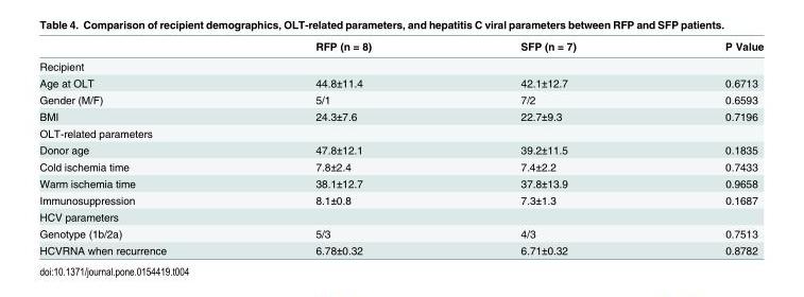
<table><thead><tr><td></td><td>RFP (n = 8)</td><td>SFP (n = 7)</td><td>P Value</td></tr></thead><tbody><tr><td colspan="4">Recipient</td></tr><tr><td>Age at OLT</td><td>44.8±11.4</td><td>42.1±12.7</td><td>0.6713</td></tr><tr><td>Gender (M/F)</td><td>5/1</td><td>7/2</td><td>0.6593</td></tr><tr><td>BMI</td><td>24.3±7.6</td><td>22.7±9.3</td><td>0.7196</td></tr><tr><td colspan="4">OLT-related parameters</td></tr><tr><td>Donor age</td><td>47.8±12.1</td><td>39.2±11.5</td><td>0.1835</td></tr><tr><td>Cold ischemia time</td><td>7.8±2.4</td><td>7.4±2.2</td><td>0.7433</td></tr><tr><td>Warm ischemia time</td><td>38.1±12.7</td><td>37.8±13.9</td><td>0.9658</td></tr><tr><td>Immunosuppression</td><td>8.1±0.8</td><td>7.3±1.3</td><td>0.1687</td></tr><tr><td colspan="4">HCV parameters</td></tr><tr><td>Genotype (1b/2a)</td><td>5/3</td><td>4/3</td><td>0.7513</td></tr><tr><td>HCVRNA when recurrence</td><td>6.78±0.32</td><td>6.71±0.32</td><td>0.8782</td></tr></tbody></table>